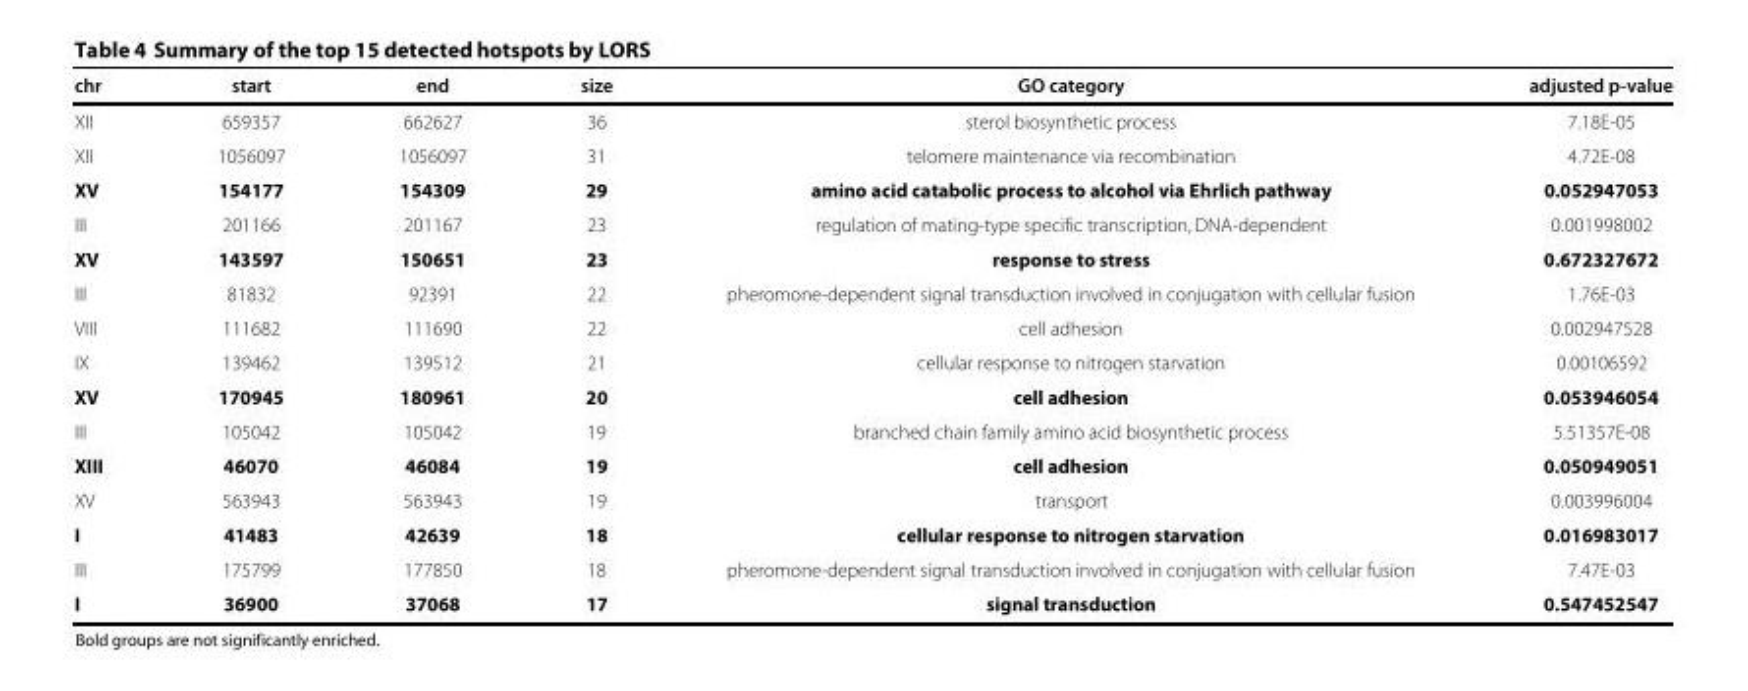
<table><thead><tr><td>chr</td><td>start</td><td>end</td><td>size</td><td>GO category</td><td>adjusted p-value</td></tr></thead><tbody><tr><td>XII</td><td>659357</td><td>662627</td><td>36</td><td>sterol biosynthetic process</td><td>7.18E-05</td></tr><tr><td>XII</td><td>1056097</td><td>1056097</td><td>31</td><td>telomere maintenance via recombination</td><td>4.72E-08</td></tr><tr><td>XV</td><td>154177</td><td>154309</td><td>29</td><td>amino acid catabolic process to alcohol via Ehrlich pathway</td><td>0.052947053</td></tr><tr><td>III</td><td>201166</td><td>201167</td><td>23</td><td>regulation of mating-type specific transcription, DNA-dependent</td><td>0.001998002</td></tr><tr><td>XV</td><td>143597</td><td>150651</td><td>23</td><td>response to stress</td><td>0.672327672</td></tr><tr><td>III</td><td>81832</td><td>92391</td><td>22</td><td>pheromone-dependent signal transduction involved in conjugation with cellular fusion</td><td>1.76E-03</td></tr><tr><td>VIII</td><td>111682</td><td>111690</td><td>22</td><td>cell adhesion</td><td>0.002947528</td></tr><tr><td>IX</td><td>139462</td><td>139512</td><td>21</td><td>cellular response to nitrogen starvation</td><td>0.00106592</td></tr><tr><td>XV</td><td>170945</td><td>180961</td><td>20</td><td>cell adhesion</td><td>0.053946054</td></tr><tr><td>III</td><td>105042</td><td>105042</td><td>19</td><td>branched chain family amino acid biosynthetic process</td><td>5.51357E-08</td></tr><tr><td>XIII</td><td>46070</td><td>46084</td><td>19</td><td>cell adhesion</td><td>0.050949051</td></tr><tr><td>XV</td><td>563943</td><td>563943</td><td>19</td><td>transport</td><td>0.003996004</td></tr><tr><td>I</td><td>41483</td><td>42639</td><td>18</td><td>cellular response to nitrogen starvation</td><td>0.016983017</td></tr><tr><td>III</td><td>175799</td><td>177850</td><td>18</td><td>pheromone-dependent signal transduction involved in conjugation with cellular fusion</td><td>7.47E-03</td></tr><tr><td>I</td><td>36900</td><td>37068</td><td>17</td><td>signal transduction</td><td>0.547452547</td></tr></tbody></table>